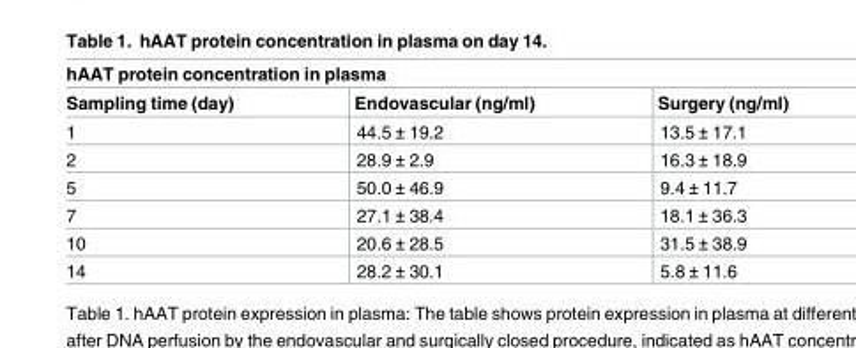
<table><thead><tr><td colspan="3">hAAT protein concentration in plasma</td></tr><tr><td>Sampling time (day)</td><td>Endovascular (ng/ml)</td><td>Surgery (ng/ml)</td></tr></thead><tbody><tr><td>1</td><td>44.5 ± 19.2</td><td>13.5 ± 17.1</td></tr><tr><td>2</td><td>28.9 ± 2.9</td><td>16.3 ± 18.9</td></tr><tr><td>5</td><td>50.0 ± 46.9</td><td>9.4 ± 11.7</td></tr><tr><td>7</td><td>27.1 ± 38.4</td><td>18.1 ± 36.3</td></tr><tr><td>10</td><td>20.6 ± 28.5</td><td>31.5 ± 38.9</td></tr><tr><td>14</td><td>28.2 ± 30.1</td><td>5.8 ± 11.6</td></tr></tbody></table>